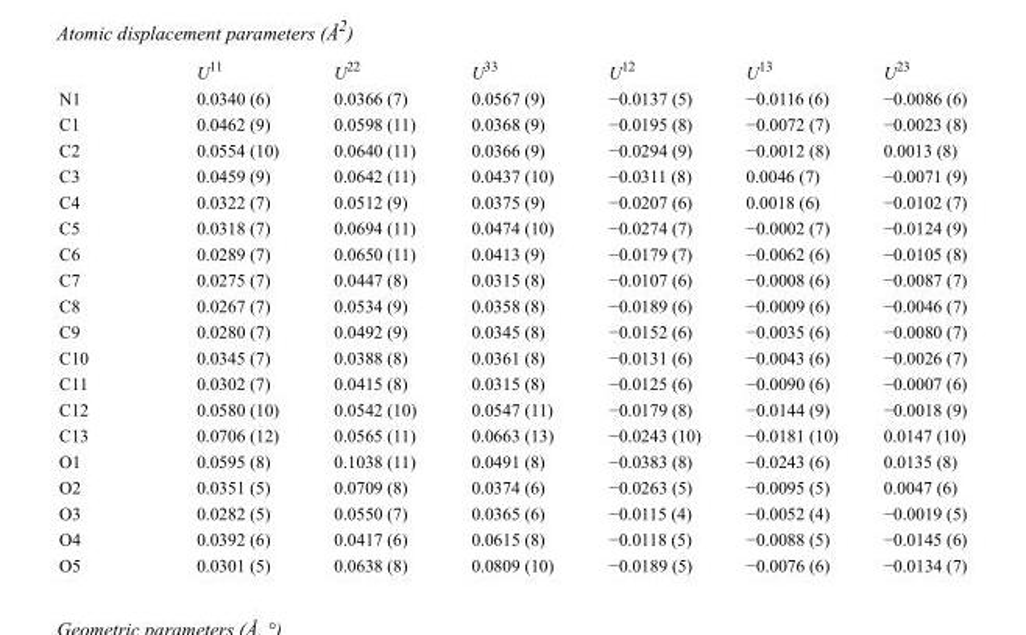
<table><thead><tr><td></td><td>U<sup>11</sup></td><td>U<sup>22</sup></td><td>U<sup>33</sup></td><td>U<sup>12</sup></td><td>U<sup>13</sup></td><td>U<sup>23</sup></td></tr></thead><tbody><tr><td>N1</td><td>0.0340 (6)</td><td>0.0366 (7)</td><td>0.0567 (9)</td><td>−0.0137 (5)</td><td>−0.0116 (6)</td><td>−0.0086 (6)</td></tr><tr><td>C1</td><td>0.0462 (9)</td><td>0.0598 (11)</td><td>0.0368 (9)</td><td>−0.0195 (8)</td><td>−0.0072 (7)</td><td>−0.0023 (8)</td></tr><tr><td>C2</td><td>0.0554 (10)</td><td>0.0640 (11)</td><td>0.0366 (9)</td><td>−0.0294 (9)</td><td>−0.0012 (8)</td><td>0.0013 (8)</td></tr><tr><td>C3</td><td>0.0459 (9)</td><td>0.0642 (11)</td><td>0.0437 (10)</td><td>−0.0311 (8)</td><td>0.0046 (7)</td><td>−0.0071 (9)</td></tr><tr><td>C4</td><td>0.0322 (7)</td><td>0.0512 (9)</td><td>0.0375 (9)</td><td>−0.0207 (6)</td><td>0.0018 (6)</td><td>−0.0102 (7)</td></tr><tr><td>C5</td><td>0.0318 (7)</td><td>0.0694 (11)</td><td>0.0474 (10)</td><td>−0.0274 (7)</td><td>−0.0002 (7)</td><td>−0.0124 (9)</td></tr><tr><td>C6</td><td>0.0289 (7)</td><td>0.0650 (11)</td><td>0.0413 (9)</td><td>−0.0179 (7)</td><td>−0.0062 (6)</td><td>−0.0105 (8)</td></tr><tr><td>C7</td><td>0.0275 (7)</td><td>0.0447 (8)</td><td>0.0315 (8)</td><td>−0.0107 (6)</td><td>−0.0008 (6)</td><td>−0.0087 (7)</td></tr><tr><td>C8</td><td>0.0267 (7)</td><td>0.0534 (9)</td><td>0.0358 (8)</td><td>−0.0189 (6)</td><td>−0.0009 (6)</td><td>−0.0046 (7)</td></tr><tr><td>C9</td><td>0.0280 (7)</td><td>0.0492 (9)</td><td>0.0345 (8)</td><td>−0.0152 (6)</td><td>−0.0035 (6)</td><td>−0.0080 (7)</td></tr><tr><td>C10</td><td>0.0345 (7)</td><td>0.0388 (8)</td><td>0.0361 (8)</td><td>−0.0131 (6)</td><td>−0.0043 (6)</td><td>−0.0026 (7)</td></tr><tr><td>C11</td><td>0.0302 (7)</td><td>0.0415 (8)</td><td>0.0315 (8)</td><td>−0.0125 (6)</td><td>−0.0090 (6)</td><td>−0.0007 (6)</td></tr><tr><td>C12</td><td>0.0580 (10)</td><td>0.0542 (10)</td><td>0.0547 (11)</td><td>−0.0179 (8)</td><td>−0.0144 (9)</td><td>−0.0018 (9)</td></tr><tr><td>C13</td><td>0.0706 (12)</td><td>0.0565 (11)</td><td>0.0663 (13)</td><td>−0.0243 (10)</td><td>−0.0181 (10)</td><td>0.0147 (10)</td></tr><tr><td>O1</td><td>0.0595 (8)</td><td>0.1038 (11)</td><td>0.0491 (8)</td><td>−0.0383 (8)</td><td>−0.0243 (6)</td><td>0.0135 (8)</td></tr><tr><td>O2</td><td>0.0351 (5)</td><td>0.0709 (8)</td><td>0.0374 (6)</td><td>−0.0263 (5)</td><td>−0.0095 (5)</td><td>0.0047 (6)</td></tr><tr><td>O3</td><td>0.0282 (5)</td><td>0.0550 (7)</td><td>0.0365 (6)</td><td>−0.0115 (4)</td><td>−0.0052 (4)</td><td>−0.0019 (5)</td></tr><tr><td>O4</td><td>0.0392 (6)</td><td>0.0417 (6)</td><td>0.0615 (8)</td><td>−0.0118 (5)</td><td>−0.0088 (5)</td><td>−0.0145 (6)</td></tr><tr><td>O5</td><td>0.0301 (5)</td><td>0.0638 (8)</td><td>0.0809 (10)</td><td>−0.0189 (5)</td><td>−0.0076 (6)</td><td>−0.0134 (7)</td></tr></tbody></table>